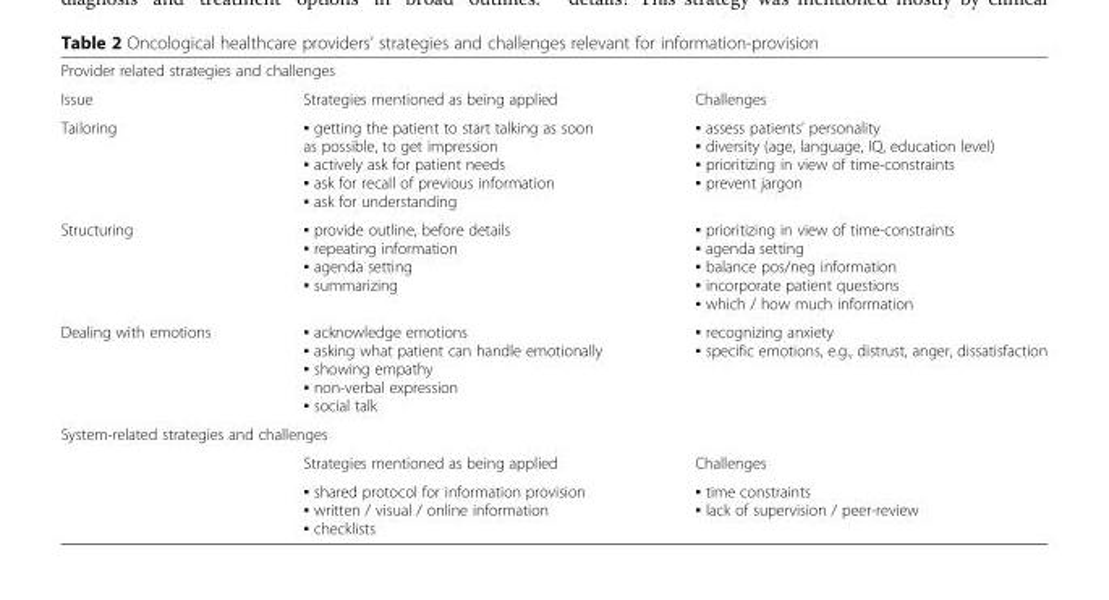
<table><tbody><tr><td colspan="3">Provider related strategies and challenges</td></tr><tr><td>Issue</td><td>Strategies mentioned as being applied</td><td>Challenges</td></tr><tr><td>Tailoring</td><td>▪ getting the patient to start talking as soon as possible, to get impression ▪ actively ask for patient needs ▪ ask for recall of previous information ▪ ask for understanding</td><td>▪ assess patients’ personality ▪ diversity (age, language, IQ, education level) ▪ prioritizing in view of time-constraints ▪ prevent jargon</td></tr><tr><td>Structuring</td><td>▪ provide outline, before details ▪ repeating information ▪ agenda setting ▪ summarizing</td><td>▪ prioritizing in view of time-constraints ▪ agenda setting ▪ balance pos/neg information ▪ incorporate patient questions ▪ which / how much information</td></tr><tr><td>Dealing with emotions</td><td>▪ acknowledge emotions ▪ asking what patient can handle emotionally ▪ showing empathy ▪ non-verbal expression ▪ social talk</td><td>▪ recognizing anxiety ▪ specific emotions, e.g., distrust, anger, dissatisfaction</td></tr><tr><td colspan="3">System-related strategies and challenges</td></tr><tr><td></td><td>Strategies mentioned as being applied</td><td>Challenges</td></tr><tr><td></td><td>▪ shared protocol for information provision ▪ written / visual / online information ▪ checklists</td><td>▪ time constraints ▪ lack of supervision / peer-review</td></tr></tbody></table>